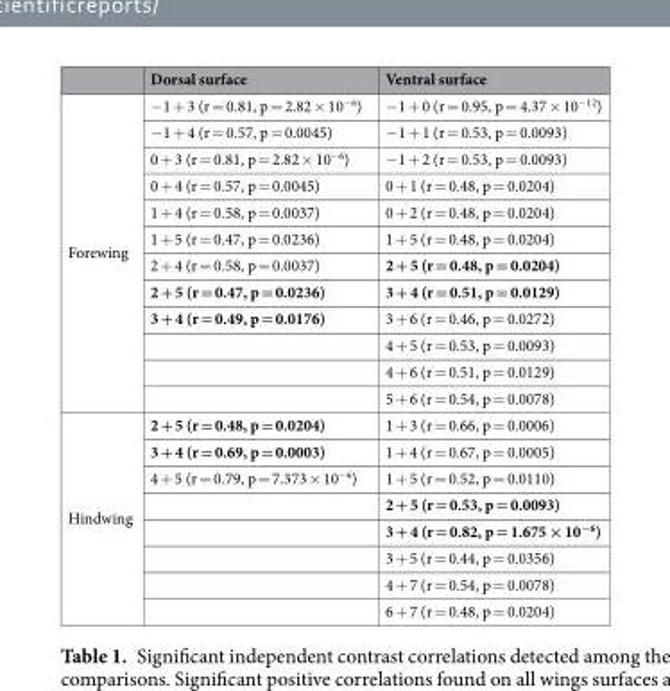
<table><thead><tr><td></td><td>Dorsal surface</td><td>Ventral surface</td></tr></thead><tbody><tr><td rowspan="12">Forewing</td><td>−1 + 3 (r = 0.81, p = 2.82 × 10<sup>−6</sup>)</td><td>−1 + 0 (r = 0.95, p = 4.37 × 10<sup>−12</sup>)</td></tr><tr><td>−1 + 4 (r = 0.57, p = 0.0045)</td><td>−1 + 1 (r = 0.53, p = 0.0093)</td></tr><tr><td>0 + 3 (r = 0.81, p = 2.82 × 10<sup>−6</sup>)</td><td>−1 + 2 (r = 0.53, p = 0.0093)</td></tr><tr><td>0 + 4 (r = 0.57, p = 0.0045)</td><td>0 + 1 (r = 0.48, p = 0.0204)</td></tr><tr><td>1 + 4 (r = 0.58, p = 0.0037)</td><td>0 + 2 (r = 0.48, p = 0.0204)</td></tr><tr><td>1 + 5 (r = 0.47, p = 0.0236)</td><td>1 + 5 (r = 0.48, p = 0.0204)</td></tr><tr><td>2 + 4 (r = 0.58, p = 0.0037)</td><td>2 + 5 (r = 0.48, p = 0.0204)</td></tr><tr><td>2 + 5 (r = 0.47, p = 0.0236)</td><td>3 + 4 (r = 0.51, p = 0.0129)</td></tr><tr><td>3 + 4 (r = 0.49, p = 0.0176)</td><td>3 + 6 (r = 0.46, p = 0.0272)</td></tr><tr><td></td><td>4 + 5 (r = 0.53, p = 0.0093)</td></tr><tr><td></td><td>4 + 6 (r = 0.51, p = 0.0129)</td></tr><tr><td></td><td>5 + 6 (r = 0.54, p = 0.0078)</td></tr><tr><td rowspan="8">Hindwing</td><td>2 + 5 (r = 0.48, p = 0.0204)</td><td>1 + 3 (r = 0.66, p = 0.0006)</td></tr><tr><td>3 + 4 (r = 0.69, p = 0.0003)</td><td>1 + 4 (r = 0.67, p = 0.0005)</td></tr><tr><td>4 + 5 (r = 0.79, p = 7.373 × 10<sup>−6</sup>)</td><td>1 + 5 (r = 0.52, p = 0.0110)</td></tr><tr><td></td><td>2 + 5 (r = 0.53, p = 0.0093)</td></tr><tr><td></td><td>3 + 4 (r = 0.82, p = 1.675 × 10<sup>−6</sup>)</td></tr><tr><td></td><td>3 + 5 (r = 0.44, p = 0.0356)</td></tr><tr><td></td><td>4 + 7 (r = 0.54, p = 0.0078)</td></tr><tr><td></td><td>6 + 7 (r = 0.48, p = 0.0204)</td></tr></tbody></table>